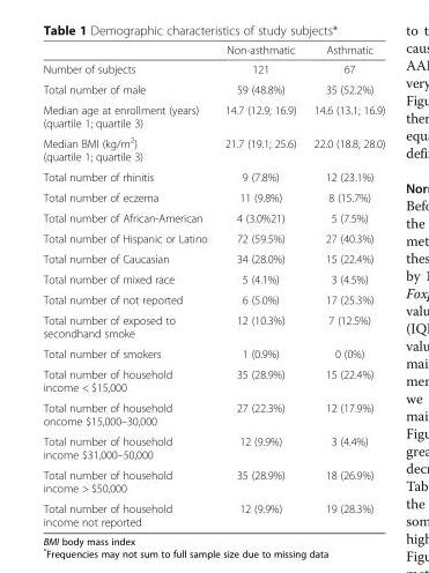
<table><thead><tr><td></td><td>Non-asthmatic</td><td>Asthmatic</td></tr></thead><tbody><tr><td>Number of subjects</td><td>121</td><td>67</td></tr><tr><td>Total number of male</td><td>59 (48.8%)</td><td>35 (52.2%)</td></tr><tr><td>Median age at enrollment (years) (quartile 1; quartile 3)</td><td>14.7 (12.9; 16.9)</td><td>14.6 (13.1; 16.9)</td></tr><tr><td>Median BMI (kg/m<sup>2</sup>) (quartile 1; quartile 3)</td><td>21.7 (19.1; 25.6)</td><td>22.0 (18.8; 28.0)</td></tr><tr><td>Total number of rhinitis</td><td>9 (7.8%)</td><td>12 (23.1%)</td></tr><tr><td>Total number of eczema</td><td>11 (9.8%)</td><td>8 (15.7%)</td></tr><tr><td>Total number of African-American</td><td>4 (3.0%21)</td><td>5 (7.5%)</td></tr><tr><td>Total number of Hispanic or Latino</td><td>72 (59.5%)</td><td>27 (40.3%)</td></tr><tr><td>Total number of Caucasian</td><td>34 (28.0%)</td><td>15 (22.4%)</td></tr><tr><td>Total number of mixed race</td><td>5 (4.1%)</td><td>3 (4.5%)</td></tr><tr><td>Total number of not reported</td><td>6 (5.0%)</td><td>17 (25.3%)</td></tr><tr><td>Total number of exposed to secondhand smoke</td><td>12 (10.3%)</td><td>7 (12.5%)</td></tr><tr><td>Total number of smokers</td><td>1 (0.9%)</td><td>0 (0%)</td></tr><tr><td>Total number of household income &lt; $15,000</td><td>35 (28.9%)</td><td>15 (22.4%)</td></tr><tr><td>Total number of household oncome $15,000–30,000</td><td>27 (22.3%)</td><td>12 (17.9%)</td></tr><tr><td>Total number of household income $31,000–50,000</td><td>12 (9.9%)</td><td>3 (4.4%)</td></tr><tr><td>Total number of household income &gt; $50,000</td><td>35 (28.9%)</td><td>18 (26.9%)</td></tr><tr><td>Total number of household income not reported</td><td>12 (9.9%)</td><td>19 (28.3%)</td></tr></tbody></table>